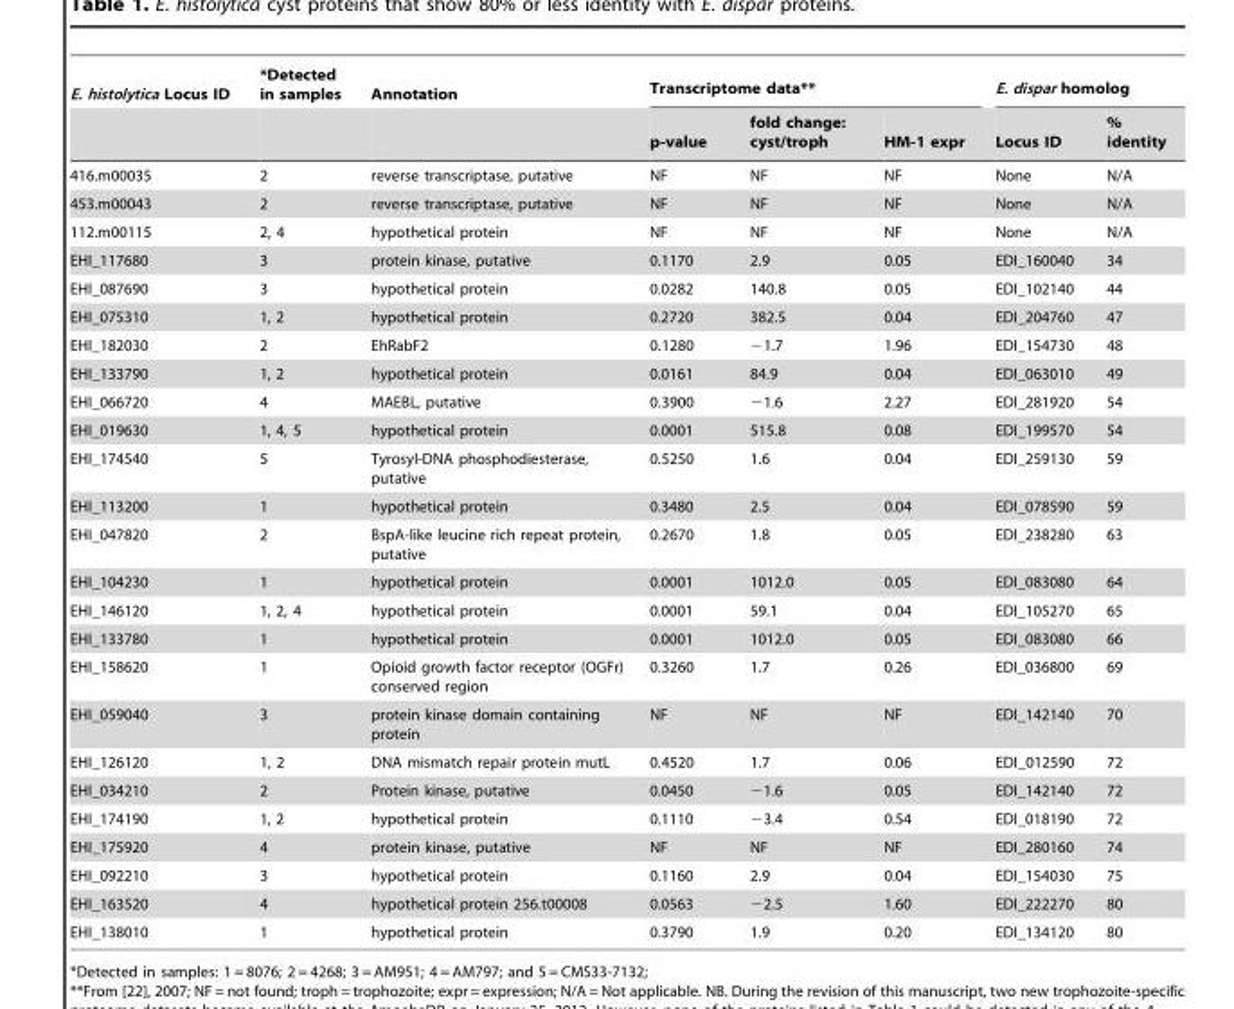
<table><thead><tr><td rowspan="2">E. histolytica Locus ID</td><td rowspan="2">*Detected in samples</td><td rowspan="2">Annotation</td><td colspan="3">Transcriptome data**</td><td colspan="2">E. dispar homolog</td></tr><tr><td>p-value</td><td>fold change: cyst/troph</td><td>HM-1 expr</td><td>Locus ID</td><td>% identity</td></tr></thead><tbody><tr><td>416.m00035</td><td>2</td><td>reverse transcriptase, putative</td><td>NF</td><td>NF</td><td>NF</td><td>None</td><td>N/A</td></tr><tr><td>453.m00043</td><td>2</td><td>reverse transcriptase, putative</td><td>NF</td><td>NF</td><td>NF</td><td>None</td><td>N/A</td></tr><tr><td>112.m00115</td><td>2, 4</td><td>hypothetical protein</td><td>NF</td><td>NF</td><td>NF</td><td>None</td><td>N/A</td></tr><tr><td>EHI_117680</td><td>3</td><td>protein kinase, putative</td><td>0.1170</td><td>2.9</td><td>0.05</td><td>EDI_160040</td><td>34</td></tr><tr><td>EHI_087690</td><td>3</td><td>hypothetical protein</td><td>0.0282</td><td>140.8</td><td>0.05</td><td>EDI_102140</td><td>44</td></tr><tr><td>EHI_075310</td><td>1, 2</td><td>hypothetical protein</td><td>0.2720</td><td>382.5</td><td>0.04</td><td>EDI_204760</td><td>47</td></tr><tr><td>EHI_182030</td><td>2</td><td>EhRabF2</td><td>0.1280</td><td>−1.7</td><td>1.96</td><td>EDI_154730</td><td>48</td></tr><tr><td>EHI_133790</td><td>1, 2</td><td>hypothetical protein</td><td>0.0161</td><td>84.9</td><td>0.04</td><td>EDI_063010</td><td>49</td></tr><tr><td>EHI_066720</td><td>4</td><td>MAEBL, putative</td><td>0.3900</td><td>−1.6</td><td>2.27</td><td>EDI_281920</td><td>54</td></tr><tr><td>EHI_019630</td><td>1, 4, 5</td><td>hypothetical protein</td><td>0.0001</td><td>515.8</td><td>0.08</td><td>EDI_199570</td><td>54</td></tr><tr><td>EHI_174540</td><td>5</td><td>Tyrosyl-DNA phosphodiesterase, putative</td><td>0.5250</td><td>1.6</td><td>0.04</td><td>EDI_259130</td><td>59</td></tr><tr><td>EHI_113200</td><td>1</td><td>hypothetical protein</td><td>0.3480</td><td>2.5</td><td>0.04</td><td>EDI_078590</td><td>59</td></tr><tr><td>EHI_047820</td><td>2</td><td>BspA-like leucine rich repeat protein, putative</td><td>0.2670</td><td>1.8</td><td>0.05</td><td>EDI_238280</td><td>63</td></tr><tr><td>EHI_104230</td><td>1</td><td>hypothetical protein</td><td>0.0001</td><td>1012.0</td><td>0.05</td><td>EDI_083080</td><td>64</td></tr><tr><td>EHI_146120</td><td>1, 2, 4</td><td>hypothetical protein</td><td>0.0001</td><td>59.1</td><td>0.04</td><td>EDI_105270</td><td>65</td></tr><tr><td>EHI_133780</td><td>1</td><td>hypothetical protein</td><td>0.0001</td><td>1012.0</td><td>0.05</td><td>EDI_083080</td><td>66</td></tr><tr><td>EHI_158620</td><td>1</td><td>Opioid growth factor receptor (OGFr) conserved region</td><td>0.3260</td><td>1.7</td><td>0.26</td><td>EDI_036800</td><td>69</td></tr><tr><td>EHI_059040</td><td>3</td><td>protein kinase domain containing protein</td><td>NF</td><td>NF</td><td>NF</td><td>EDI_142140</td><td>70</td></tr><tr><td>EHI_126120</td><td>1, 2</td><td>DNA mismatch repair protein mutL</td><td>0.4520</td><td>1.7</td><td>0.06</td><td>EDI_012590</td><td>72</td></tr><tr><td>EHI_034210</td><td>2</td><td>Protein kinase, putative</td><td>0.0450</td><td>−1.6</td><td>0.05</td><td>EDI_142140</td><td>72</td></tr><tr><td>EHI_174190</td><td>1, 2</td><td>hypothetical protein</td><td>0.1110</td><td>−3.4</td><td>0.54</td><td>EDI_018190</td><td>72</td></tr><tr><td>EHI_175920</td><td>4</td><td>protein kinase, putative</td><td>NF</td><td>NF</td><td>NF</td><td>EDI_280160</td><td>74</td></tr><tr><td>EHI_092210</td><td>3</td><td>hypothetical protein</td><td>0.1160</td><td>2.9</td><td>0.04</td><td>EDI_154030</td><td>75</td></tr><tr><td>EHI_163520</td><td>4</td><td>hypothetical protein 256.t00008</td><td>0.0563</td><td>−2.5</td><td>1.60</td><td>EDI_222270</td><td>80</td></tr><tr><td>EHI_138010</td><td>1</td><td>hypothetical protein</td><td>0.3790</td><td>1.9</td><td>0.20</td><td>EDI_134120</td><td>80</td></tr></tbody></table>